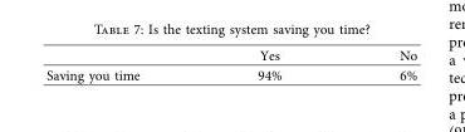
<table><thead><tr><td></td><td>Yes</td><td>No</td></tr></thead><tbody><tr><td>Saving you time</td><td>94%</td><td>6%</td></tr></tbody></table>